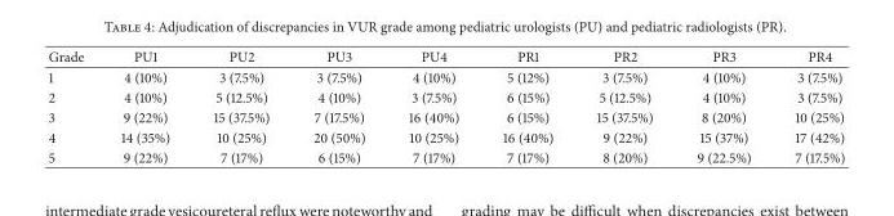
<table><thead><tr><td>Grade</td><td>PU1</td><td>PU2</td><td>PU3</td><td>PU4</td><td>PR1</td><td>PR2</td><td>PR3</td><td>PR4</td></tr></thead><tbody><tr><td>1</td><td>4 (10%)</td><td>3 (7.5%)</td><td>3 (7.5%)</td><td>4 (10%)</td><td>5 (12%)</td><td>3 (7.5%)</td><td>4 (10%)</td><td>3 (7.5%)</td></tr><tr><td>2</td><td>4 (10%)</td><td>5 (12.5%)</td><td>4 (10%)</td><td>3 (7.5%)</td><td>6 (15%)</td><td>5 (12.5%)</td><td>4 (10%)</td><td>3 (7.5%)</td></tr><tr><td>3</td><td>9 (22%)</td><td>15 (37.5%)</td><td>7 (17.5%)</td><td>16 (40%)</td><td>6 (15%)</td><td>15 (37.5%)</td><td>8 (20%)</td><td>10 (25%)</td></tr><tr><td>4</td><td>14 (35%)</td><td>10 (25%)</td><td>20 (50%)</td><td>10 (25%)</td><td>16 (40%)</td><td>9 (22%)</td><td>15 (37%)</td><td>17 (42%)</td></tr><tr><td>5</td><td>9 (22%)</td><td>7 (17%)</td><td>6 (15%)</td><td>7 (17%)</td><td>7 (17%)</td><td>8 (20%)</td><td>9 (22.5%)</td><td>7 (17.5%)</td></tr></tbody></table>